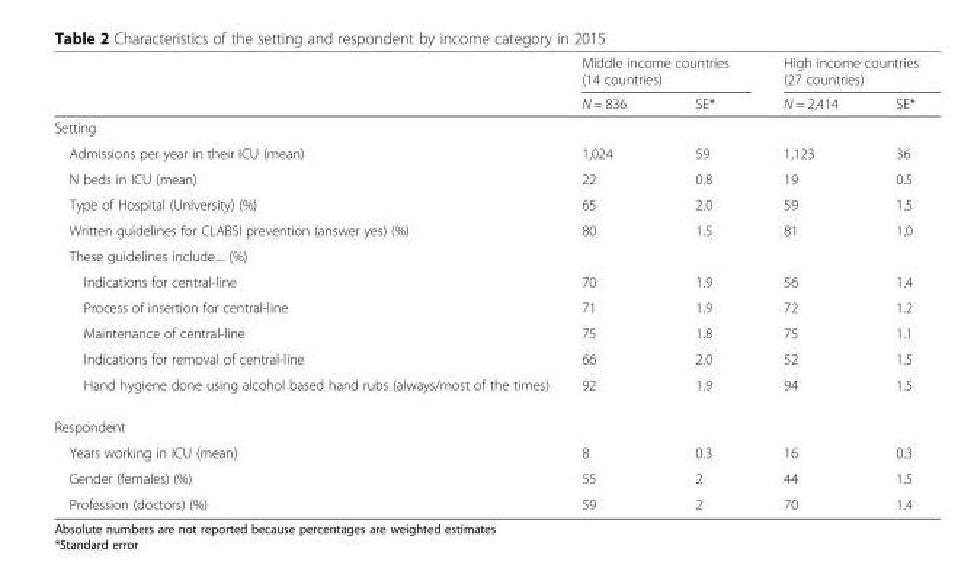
<table><thead><tr><td rowspan="2"></td><td colspan="2">Middle income countries (14 countries)</td><td colspan="2">High income countries (27 countries)</td></tr><tr><td>N = 836</td><td>SE*</td><td>N = 2,414</td><td>SE*</td></tr></thead><tbody><tr><td colspan="5">Setting</td></tr><tr><td>Admissions per year in their ICU (mean)</td><td>1,024</td><td>59</td><td>1,123</td><td>36</td></tr><tr><td>N beds in ICU (mean)</td><td>22</td><td>0.8</td><td>19</td><td>0.5</td></tr><tr><td>Type of Hospital (University) (%)</td><td>65</td><td>2.0</td><td>59</td><td>1.5</td></tr><tr><td>Written guidelines for CLABSI prevention (answer yes) (%)</td><td>80</td><td>1.5</td><td>81</td><td>1.0</td></tr><tr><td colspan="5">These guidelines include.... (%)</td></tr><tr><td>Indications for central-line</td><td>70</td><td>1.9</td><td>56</td><td>1.4</td></tr><tr><td>Process of insertion for central-line</td><td>71</td><td>1.9</td><td>72</td><td>1.2</td></tr><tr><td>Maintenance of central-line</td><td>75</td><td>1.8</td><td>75</td><td>1.1</td></tr><tr><td>Indications for removal of central-line</td><td>66</td><td>2.0</td><td>52</td><td>1.5</td></tr><tr><td>Hand hygiene done using alcohol based hand rubs (always/most of the times)</td><td>92</td><td>1.9</td><td>94</td><td>1.5</td></tr><tr><td colspan="5">Respondent</td></tr><tr><td>Years working in ICU (mean)</td><td>8</td><td>0.3</td><td>16</td><td>0.3</td></tr><tr><td>Gender (females) (%)</td><td>55</td><td>2</td><td>44</td><td>1.5</td></tr><tr><td>Profession (doctors) (%)</td><td>59</td><td>2</td><td>70</td><td>1.4</td></tr></tbody></table>